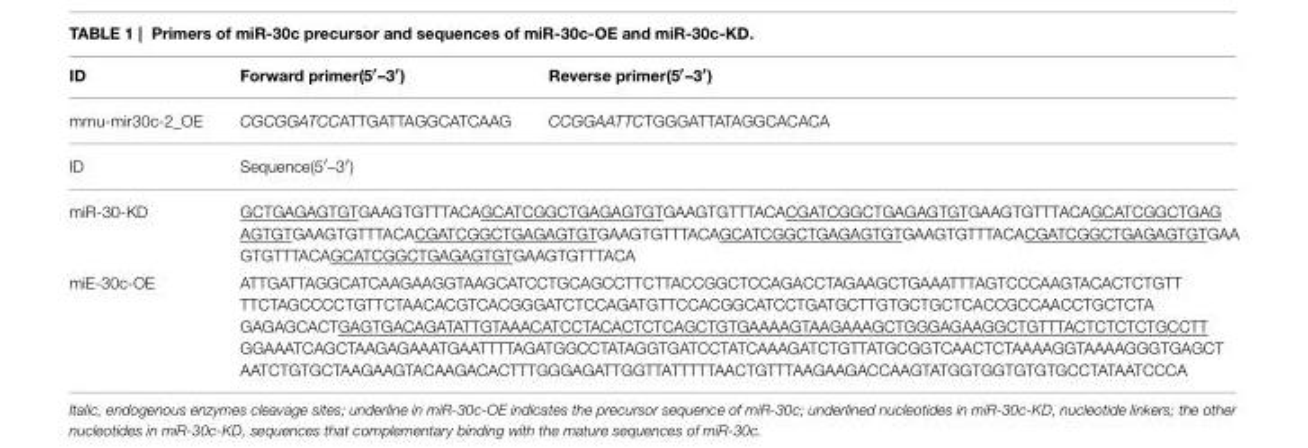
<table><thead><tr><td>ID</td><td>Forward primer(5′–3′)</td><td>Reverse primer(5′–3′)</td></tr></thead><tbody><tr><td>mmu-mir30c-2_OE</td><td>CGCGGATCCATTGATTAGGCATCAAG</td><td>CCGGAATTCTGGGATTATAGGCACACA</td></tr><tr><td>ID</td><td colspan="2">Sequence(5′–3′)</td></tr><tr><td>miR-30-KD</td><td colspan="2">GCTGAGAGTGTGAAGTGTTTACAGCATCGGCTGAGAGTGTGAAGTGTTTACACGATCGGCTGAGAGTGTGAAGTGTTTACAGCATCGGCTGAG AGTGTGAAGTGTTTACACGATCGGCTGAGAGTGTGAAGTGTTTACAGCATCGGCTGAGAGTGTGAAGTGTTTACACGATCGGCTGAGAGTGTGAA GTGTTTACAGCATCGGCTGAGAGTGTGAAGTGTTTACA</td></tr><tr><td>miE-30c-OE</td><td colspan="2">ATTGATTAGGCATCAAGAAGGTAAGCATCCTGCAGCCTTCTTACCGGCTCCAGACCTAGAAGCTGAAATTTAGTCCCAAGTACACTCTGTT TTCTAGCCCCTGTTCTAACACGTCACGGGATCTCCAGATGTTCCACGGCATCCTGATGCTTGTGCTGCTCACCGCCAACCTGCTCTA GAGAGCACTGAGTGACAGATATTGTAAACATCCTACACTCTCAGCTGTGAAAAGTAAGAAAGCTGGGAGAAGGCTGTTTACTCTCTCTGCCTT GGAAATCAGCTAAGAGAAATGAATTTTAGATGGCCTATAGGTGATCCTATCAAAGATCTGTTATGCGGTCAACTCTAAAAGGTAAAAGGGTGAGCT AATCTGTGCTAAGAAGTACAAGACACTTTGGGAGATTGGTTATTTTTAACTGTTTAAGAAGACCAAGTATGGTGGTGTGTGCCTATAATCCCA</td></tr></tbody></table>